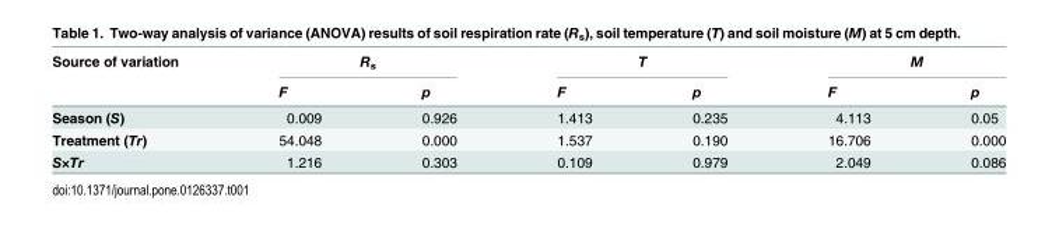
<table><thead><tr><td rowspan="2">Source of variation</td><td colspan="2">R<sub>s</sub></td><td colspan="2">T</td><td colspan="2">M</td></tr><tr><td>F</td><td>p</td><td>F</td><td>p</td><td>F</td><td>p</td></tr></thead><tbody><tr><td>Season (S)</td><td>0.009</td><td>0.926</td><td>1.413</td><td>0.235</td><td>4.113</td><td>0.05</td></tr><tr><td>Treatment (Tr)</td><td>54.048</td><td>0.000</td><td>1.537</td><td>0.190</td><td>16.706</td><td>0.000</td></tr><tr><td>S×Tr</td><td>1.216</td><td>0.303</td><td>0.109</td><td>0.979</td><td>2.049</td><td>0.086</td></tr></tbody></table>